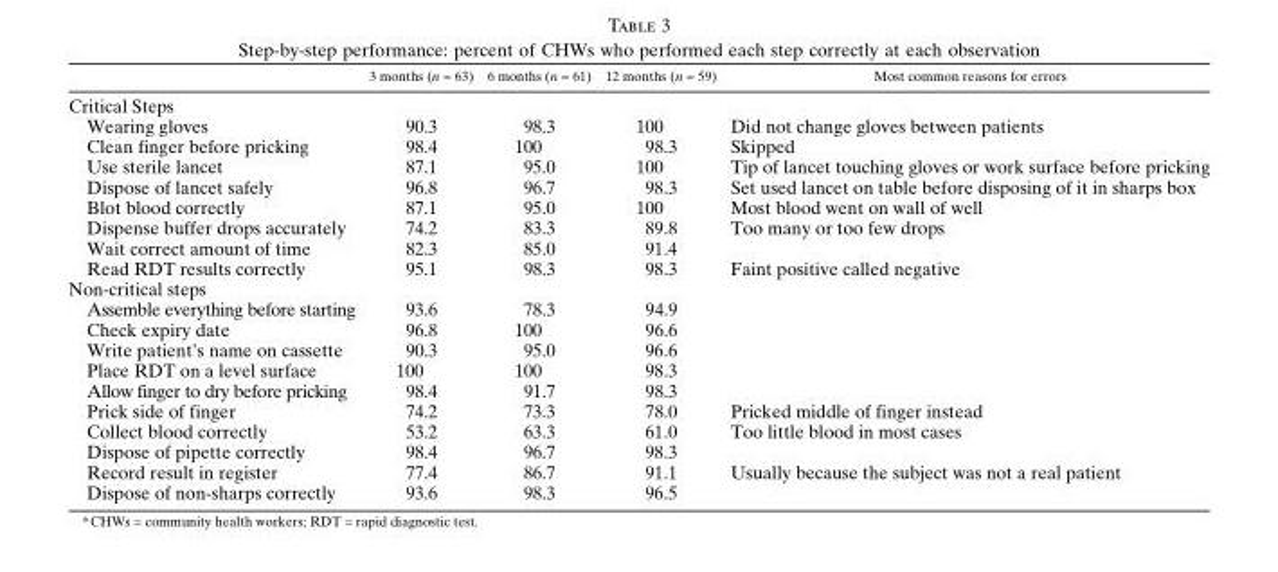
<table><thead><tr><td></td><td>3 months (n = 63)</td><td>6 months (n = 61)</td><td>12 months (n = 59)</td><td>Most common reasons for errors</td></tr></thead><tbody><tr><td colspan="5">Critical Steps</td></tr><tr><td>Wearing gloves</td><td>90.3</td><td>98.3</td><td>100</td><td>Did not change gloves between patients</td></tr><tr><td>Clean finger before pricking</td><td>98.4</td><td>100</td><td>98.3</td><td>Skipped</td></tr><tr><td>Use sterile lancet</td><td>87.1</td><td>95.0</td><td>100</td><td>Tip of lancet touching gloves or work surface before pricking</td></tr><tr><td>Dispose of lancet safely</td><td>96.8</td><td>96.7</td><td>98.3</td><td>Set used lancet on table before disposing of it in sharps box</td></tr><tr><td>Blot blood correctly</td><td>87.1</td><td>95.0</td><td>100</td><td>Most blood went on wall of well</td></tr><tr><td>Dispense buffer drops accurately</td><td>74.2</td><td>83.3</td><td>89.8</td><td>Too many or too few drops</td></tr><tr><td>Wait correct amount of time</td><td>82.3</td><td>85.0</td><td>91.4</td><td></td></tr><tr><td>Read RDT results correctly</td><td>95.1</td><td>98.3</td><td>98.3</td><td>Faint positive called negative</td></tr><tr><td colspan="5">Non-critical steps</td></tr><tr><td>Assemble everything before starting</td><td>93.6</td><td>78.3</td><td>94.9</td><td></td></tr><tr><td>Check expiry date</td><td>96.8</td><td>100</td><td>96.6</td><td></td></tr><tr><td>Write patient’s name on cassette</td><td>90.3</td><td>95.0</td><td>96.6</td><td></td></tr><tr><td>Place RDT on a level surface</td><td>100</td><td>100</td><td>98.3</td><td></td></tr><tr><td>Allow finger to dry before pricking</td><td>98.4</td><td>91.7</td><td>98.3</td><td></td></tr><tr><td>Prick side of finger</td><td>74.2</td><td>73.3</td><td>78.0</td><td>Pricked middle of finger instead</td></tr><tr><td>Collect blood correctly</td><td>53.2</td><td>63.3</td><td>61.0</td><td>Too little blood in most cases</td></tr><tr><td>Dispose of pipette correctly</td><td>98.4</td><td>96.7</td><td>98.3</td><td></td></tr><tr><td>Record result in register</td><td>77.4</td><td>86.7</td><td>91.1</td><td>Usually because the subject was not a real patient</td></tr><tr><td>Dispose of non-sharps correctly</td><td>93.6</td><td>98.3</td><td>96.5</td><td></td></tr></tbody></table>